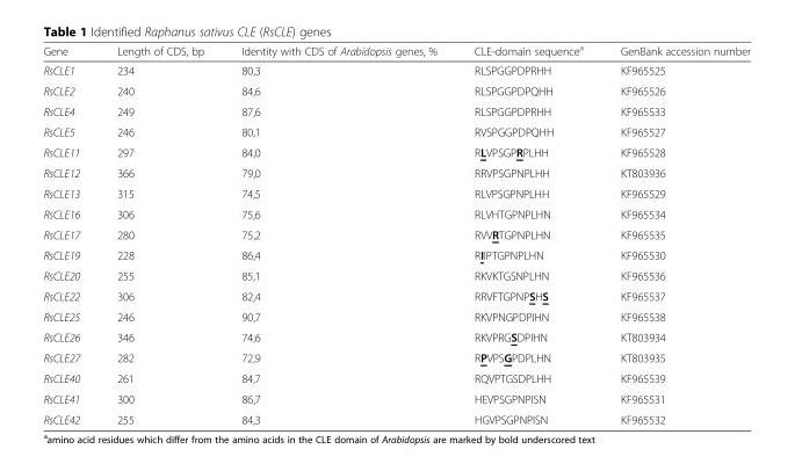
<table><thead><tr><td>Gene</td><td>Length of CDS, bp</td><td>Identity with CDS of Arabidopsis genes, %</td><td>CLE-domain sequence<sup>a</sup></td><td>GenBank accession number</td></tr></thead><tbody><tr><td>RsCLE1</td><td>234</td><td>80,3</td><td>RLSPGGPDPRHH</td><td>KF965525</td></tr><tr><td>RsCLE2</td><td>240</td><td>84,6</td><td>RLSPGGPDPQHH</td><td>KF965526</td></tr><tr><td>RsCLE4</td><td>249</td><td>87,6</td><td>RLSPGGPDPRHH</td><td>KF965533</td></tr><tr><td>RsCLE5</td><td>246</td><td>80,1</td><td>RVSPGGPDPQHH</td><td>KF965527</td></tr><tr><td>RsCLE11</td><td>297</td><td>84,0</td><td>RLVPSGPRPLHH</td><td>KF965528</td></tr><tr><td>RsCLE12</td><td>366</td><td>79,0</td><td>RRVPSGPNPLHH</td><td>KT803936</td></tr><tr><td>RsCLE13</td><td>315</td><td>74,5</td><td>RLVPSGPNPLHH</td><td>KF965529</td></tr><tr><td>RsCLE16</td><td>306</td><td>75,6</td><td>RLVHTGPNPLHN</td><td>KF965534</td></tr><tr><td>RsCLE17</td><td>280</td><td>75,2</td><td>RVVRTGPNPLHN</td><td>KF965535</td></tr><tr><td>RsCLE19</td><td>228</td><td>86,4</td><td>RIIPTGPNPLHN</td><td>KF965530</td></tr><tr><td>RsCLE20</td><td>255</td><td>85,1</td><td>RKVKTGSNPLHN</td><td>KF965536</td></tr><tr><td>RsCLE22</td><td>306</td><td>82,4</td><td>RRVFTGPNPSHS</td><td>KF965537</td></tr><tr><td>RsCLE25</td><td>246</td><td>90,7</td><td>RKVPNGPDPIHN</td><td>KF965538</td></tr><tr><td>RsCLE26</td><td>346</td><td>74,6</td><td>RKVPRGSDPIHN</td><td>KT803934</td></tr><tr><td>RsCLE27</td><td>282</td><td>72,9</td><td>RPVPSGPDPLHN</td><td>KT803935</td></tr><tr><td>RsCLE40</td><td>261</td><td>84,7</td><td>RQVPTGSDPLHH</td><td>KF965539</td></tr><tr><td>RsCLE41</td><td>300</td><td>86,7</td><td>HEVPSGPNPISN</td><td>KF965531</td></tr><tr><td>RsCLE42</td><td>255</td><td>84,3</td><td>HGVPSGPNPISN</td><td>KF965532</td></tr></tbody></table>